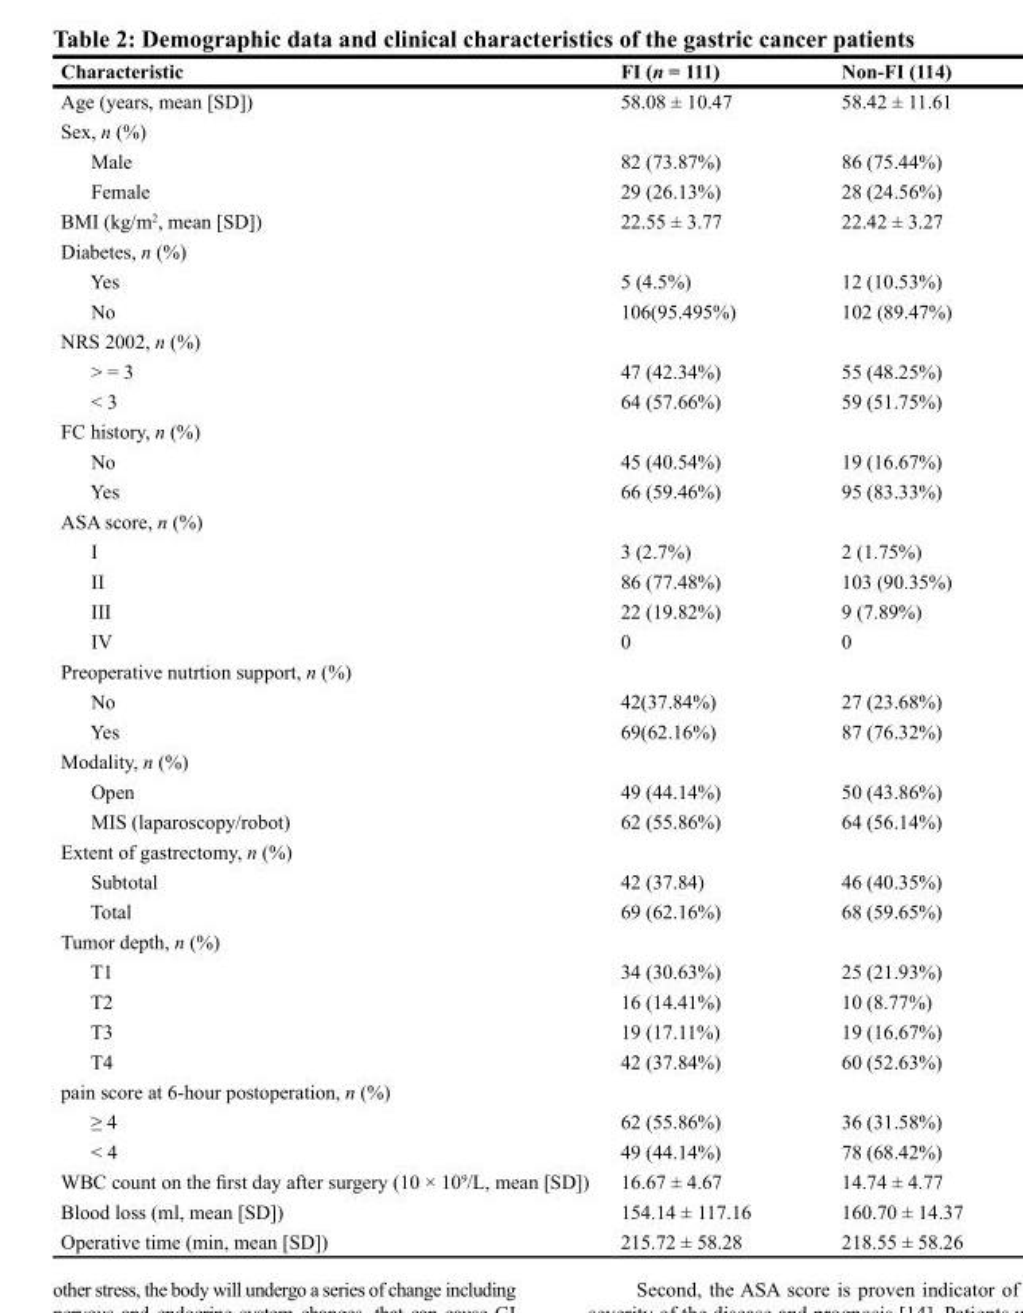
<table><thead><tr><td>Characteristic</td><td>FI (n = 111)</td><td>Non-FI (114)</td></tr></thead><tbody><tr><td>Age (years, mean [SD])</td><td>58.08 ± 10.47</td><td>58.42 ± 11.61</td></tr><tr><td colspan="3">Sex, n (%)</td></tr><tr><td>Male</td><td>82 (73.87%)</td><td>86 (75.44%)</td></tr><tr><td>Female</td><td>29 (26.13%)</td><td>28 (24.56%)</td></tr><tr><td>BMI (kg/m<sup>2</sup>, mean [SD])</td><td>22.55 ± 3.77</td><td>22.42 ± 3.27</td></tr><tr><td colspan="3">Diabetes, n (%)</td></tr><tr><td>Yes</td><td>5 (4.5%)</td><td>12 (10.53%)</td></tr><tr><td>No</td><td>106(95.495%)</td><td>102 (89.47%)</td></tr><tr><td colspan="3">NRS 2002, n (%)</td></tr><tr><td>&gt; = 3</td><td>47 (42.34%)</td><td>55 (48.25%)</td></tr><tr><td>&lt; 3</td><td>64 (57.66%)</td><td>59 (51.75%)</td></tr><tr><td colspan="3">FC history, n (%)</td></tr><tr><td>No</td><td>45 (40.54%)</td><td>19 (16.67%)</td></tr><tr><td>Yes</td><td>66 (59.46%)</td><td>95 (83.33%)</td></tr><tr><td colspan="3">ASA score, n (%)</td></tr><tr><td>I</td><td>3 (2.7%)</td><td>2 (1.75%)</td></tr><tr><td>II</td><td>86 (77.48%)</td><td>103 (90.35%)</td></tr><tr><td>III</td><td>22 (19.82%)</td><td>9 (7.89%)</td></tr><tr><td>IV</td><td>0</td><td>0</td></tr><tr><td colspan="3">Preoperative nutrtion support, n (%)</td></tr><tr><td>No</td><td>42(37.84%)</td><td>27 (23.68%)</td></tr><tr><td>Yes</td><td>69(62.16%)</td><td>87 (76.32%)</td></tr><tr><td colspan="3">Modality, n (%)</td></tr><tr><td>Open</td><td>49 (44.14%)</td><td>50 (43.86%)</td></tr><tr><td>MIS (laparoscopy/robot)</td><td>62 (55.86%)</td><td>64 (56.14%)</td></tr><tr><td colspan="3">Extent of gastrectomy, n (%)</td></tr><tr><td>Subtotal</td><td>42 (37.84)</td><td>46 (40.35%)</td></tr><tr><td>Total</td><td>69 (62.16%)</td><td>68 (59.65%)</td></tr><tr><td colspan="3">Tumor depth, n (%)</td></tr><tr><td>T1</td><td>34 (30.63%)</td><td>25 (21.93%)</td></tr><tr><td>T2</td><td>16 (14.41%)</td><td>10 (8.77%)</td></tr><tr><td>T3</td><td>19 (17.11%)</td><td>19 (16.67%)</td></tr><tr><td>T4</td><td>42 (37.84%)</td><td>60 (52.63%)</td></tr><tr><td colspan="3">pain score at 6-hour postoperation, n (%)</td></tr><tr><td>≥ 4</td><td>62 (55.86%)</td><td>36 (31.58%)</td></tr><tr><td>&lt; 4</td><td>49 (44.14%)</td><td>78 (68.42%)</td></tr><tr><td>WBC count on the first day after surgery (10 × 10<sup>9</sup>/L, mean [SD])</td><td>16.67 ± 4.67</td><td>14.74 ± 4.77</td></tr><tr><td>Blood loss (ml, mean [SD])</td><td>154.14 ± 117.16</td><td>160.70 ± 14.37</td></tr><tr><td>Operative time (min, mean [SD])</td><td>215.72 ± 58.28</td><td>218.55 ± 58.26</td></tr></tbody></table>